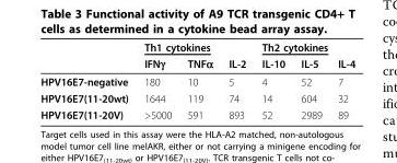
<table><thead><tr><td rowspan="2"></td><td colspan="3">Th1 cytokines</td><td colspan="3">Th2 cytokines</td></tr><tr><td>IFNγ</td><td>TNFα</td><td>IL-2</td><td>IL-10</td><td>IL-5</td><td>IL-4</td></tr></thead><tbody><tr><td>HPV16E7-negative</td><td>180</td><td>10</td><td>5</td><td>4</td><td>52</td><td>7</td></tr><tr><td>HPV16E7(11-20wt)</td><td>1644</td><td>119</td><td>74</td><td>14</td><td>604</td><td>32</td></tr><tr><td>HPV16E7(11-20V)</td><td>&gt;5000</td><td>591</td><td>893</td><td>52</td><td>2989</td><td>89</td></tr></tbody></table>